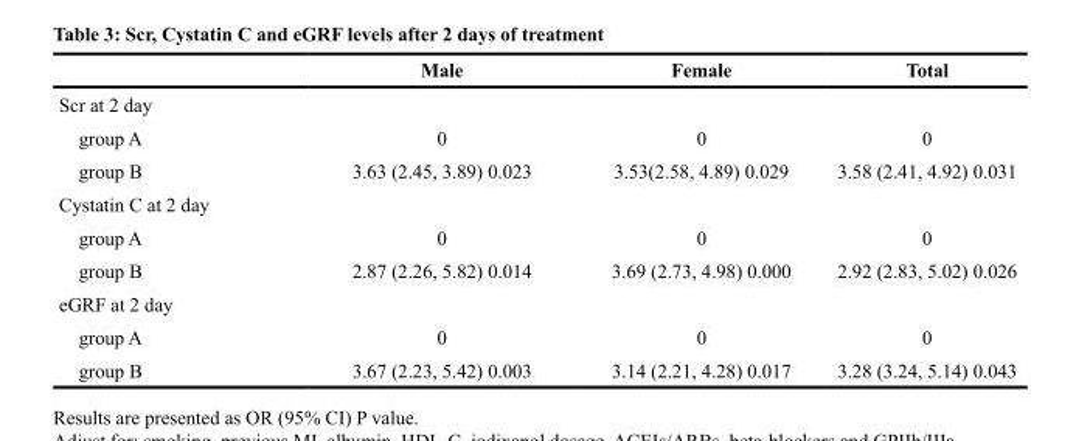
<table><thead><tr><td></td><td>Male</td><td>Female</td><td>Total</td></tr></thead><tbody><tr><td colspan="4">Scr at 2 day</td></tr><tr><td>group A</td><td>0</td><td>0</td><td>0</td></tr><tr><td>group B</td><td>3.63 (2.45, 3.89) 0.023</td><td>3.53(2.58, 4.89) 0.029</td><td>3.58 (2.41, 4.92) 0.031</td></tr><tr><td colspan="4">Cystatin C at 2 day</td></tr><tr><td>group A</td><td>0</td><td>0</td><td>0</td></tr><tr><td>group B</td><td>2.87 (2.26, 5.82) 0.014</td><td>3.69 (2.73, 4.98) 0.000</td><td>2.92 (2.83, 5.02) 0.026</td></tr><tr><td colspan="4">eGRF at 2 day</td></tr><tr><td>group A</td><td>0</td><td>0</td><td>0</td></tr><tr><td>group B</td><td>3.67 (2.23, 5.42) 0.003</td><td>3.14 (2.21, 4.28) 0.017</td><td>3.28 (3.24, 5.14) 0.043</td></tr></tbody></table>